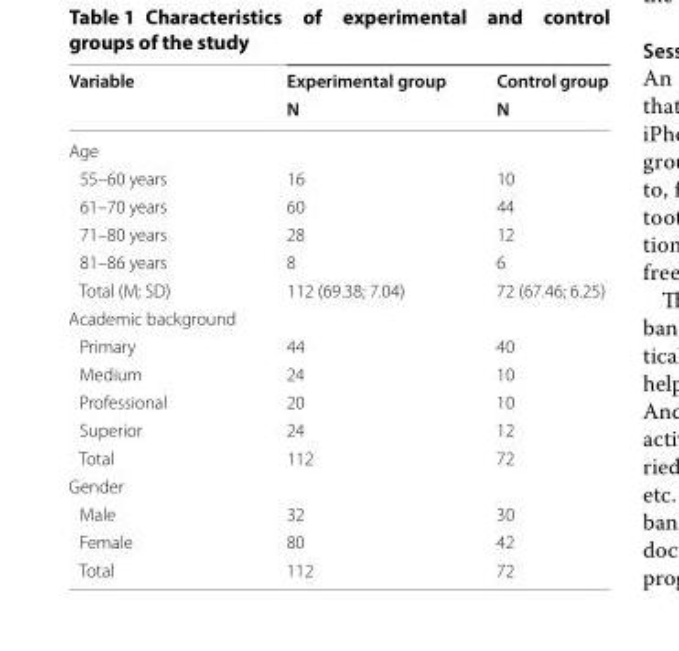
<table><thead><tr><td rowspan="2">Variable</td><td rowspan="2">Experimental group N</td><td rowspan="2">Control group N</td></tr><tr></tr></thead><tbody><tr><td colspan="3">Age</td></tr><tr><td>55–60 years</td><td>16</td><td>10</td></tr><tr><td>61–70 years</td><td>60</td><td>44</td></tr><tr><td>71–80 years</td><td>28</td><td>12</td></tr><tr><td>81–86 years</td><td>8</td><td>6</td></tr><tr><td>Total (M; SD)</td><td>112 (69.38; 7.04)</td><td>72 (67.46; 6.25)</td></tr><tr><td colspan="3">Academic background</td></tr><tr><td>Primary</td><td>44</td><td>40</td></tr><tr><td>Medium</td><td>24</td><td>10</td></tr><tr><td>Professional</td><td>20</td><td>10</td></tr><tr><td>Superior</td><td>24</td><td>12</td></tr><tr><td>Total</td><td>112</td><td>72</td></tr><tr><td colspan="3">Gender</td></tr><tr><td>Male</td><td>32</td><td>30</td></tr><tr><td>Female</td><td>80</td><td>42</td></tr><tr><td>Total</td><td>112</td><td>72</td></tr></tbody></table>